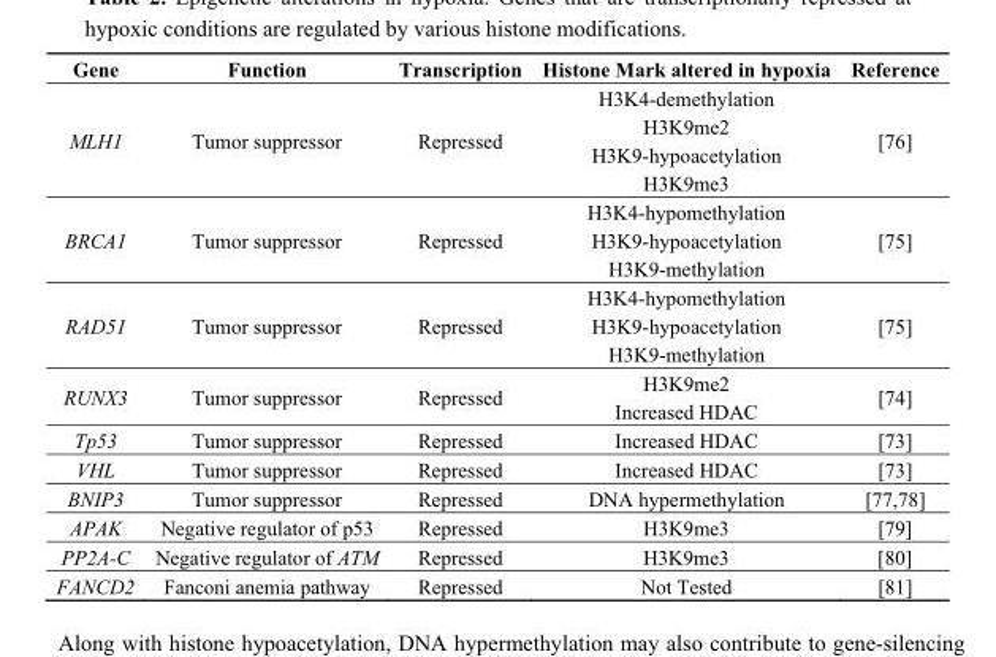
<table><thead><tr><td>Gene</td><td>Function</td><td>Transcription</td><td>Histone Mark altered in hypoxia</td><td>Reference</td></tr></thead><tbody><tr><td>MLH1</td><td>Tumor suppressor</td><td>Repressed</td><td>H3K4-demethylation H3K9me2 H3K9-hypoacetylation H3K9me3</td><td>[76]</td></tr><tr><td>BRCA1</td><td>Tumor suppressor</td><td>Repressed</td><td>H3K4-hypomethylation H3K9-hypoacetylation H3K9-methylation</td><td>[75]</td></tr><tr><td>RAD51</td><td>Tumor suppressor</td><td>Repressed</td><td>H3K4-hypomethylation H3K9-hypoacetylation H3K9-methylation</td><td>[75]</td></tr><tr><td>RUNX3</td><td>Tumor suppressor</td><td>Repressed</td><td>H3K9me2 Increased HDAC</td><td>[74]</td></tr><tr><td>Tp53</td><td>Tumor suppressor</td><td>Repressed</td><td>Increased HDAC</td><td>[73]</td></tr><tr><td>VHL</td><td>Tumor suppressor</td><td>Repressed</td><td>Increased HDAC</td><td>[73]</td></tr><tr><td>BNIP3</td><td>Tumor suppressor</td><td>Repressed</td><td>DNA hypermethylation</td><td>[77,78]</td></tr><tr><td>APAK</td><td>Negative regulator of p53</td><td>Repressed</td><td>H3K9me3</td><td>[79]</td></tr><tr><td>PP2A-C</td><td>Negative regulator of ATM</td><td>Repressed</td><td>H3K9me3</td><td>[80]</td></tr><tr><td>FANCD2</td><td>Fanconi anemia pathway</td><td>Repressed</td><td>Not Tested</td><td>[81]</td></tr></tbody></table>